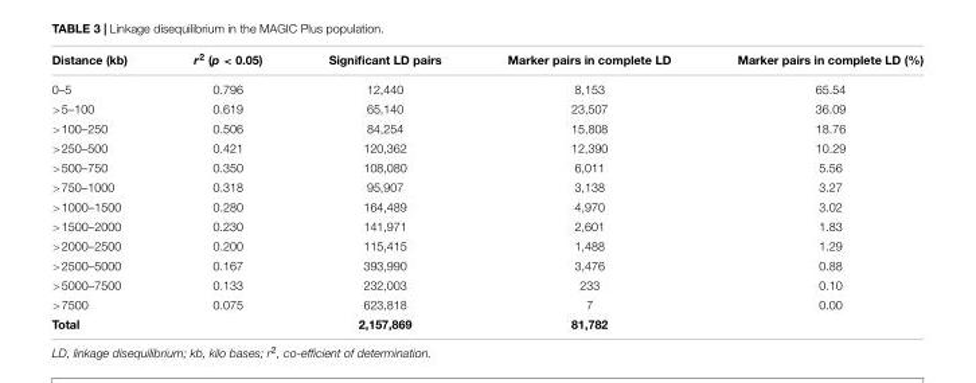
<table><thead><tr><td>Distance (kb)</td><td>r<sup>2</sup> (p &lt; 0.05)</td><td>Significant LD pairs</td><td>Marker pairs in complete LD</td><td>Marker pairs in complete LD (%)</td></tr></thead><tbody><tr><td>0–5</td><td>0.796</td><td>12,440</td><td>8,153</td><td>65.54</td></tr><tr><td>&gt;5–100</td><td>0.619</td><td>65,140</td><td>23,507</td><td>36.09</td></tr><tr><td>&gt;100–250</td><td>0.506</td><td>84,254</td><td>15,808</td><td>18.76</td></tr><tr><td>&gt;250–500</td><td>0.421</td><td>120,362</td><td>12,390</td><td>10.29</td></tr><tr><td>&gt;500–750</td><td>0.350</td><td>108,080</td><td>6,011</td><td>5.56</td></tr><tr><td>&gt;750–1000</td><td>0.318</td><td>95,907</td><td>3,138</td><td>3.27</td></tr><tr><td>&gt;1000–1500</td><td>0.280</td><td>164,489</td><td>4,970</td><td>3.02</td></tr><tr><td>&gt;1500–2000</td><td>0.230</td><td>141,971</td><td>2,601</td><td>1.83</td></tr><tr><td>&gt;2000–2500</td><td>0.200</td><td>115,415</td><td>1,488</td><td>1.29</td></tr><tr><td>&gt;2500–5000</td><td>0.167</td><td>393,990</td><td>3,476</td><td>0.88</td></tr><tr><td>&gt;5000–7500</td><td>0.133</td><td>232,003</td><td>233</td><td>0.10</td></tr><tr><td>&gt;7500</td><td>0.075</td><td>623,818</td><td>7</td><td>0.00</td></tr><tr><td>Total</td><td></td><td>2,157,869</td><td>81,782</td><td></td></tr></tbody></table>